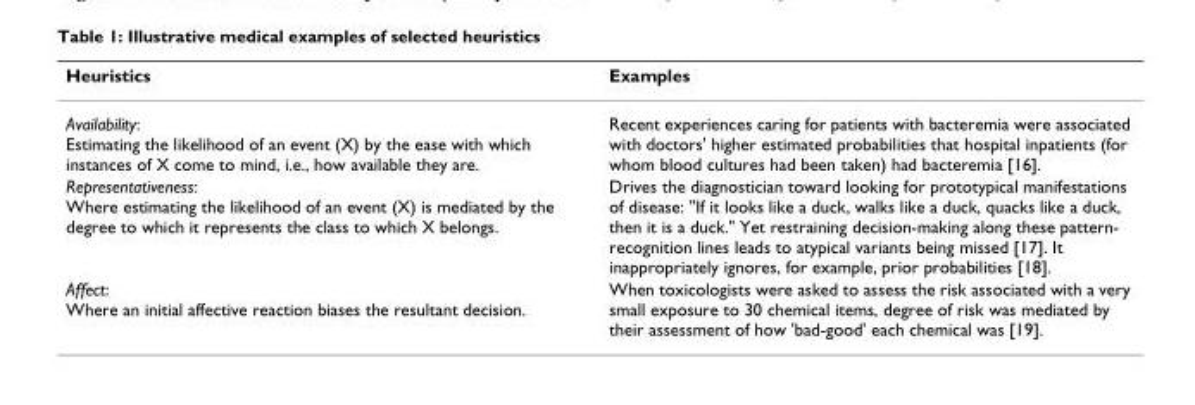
<table><thead><tr><td>Heuristics</td><td>Examples</td></tr></thead><tbody><tr><td>Availability: Estimating the likelihood of an event (X) by the ease with which instances of X come to mind, i.e., how available they are.</td><td>Recent experiences caring for patients with bacteremia were associated with doctors&#x27; higher estimated probabilities that hospital inpatients (for whom blood cultures had been taken) had bacteremia [16].</td></tr><tr><td>Representativeness: Where estimating the likelihood of an event (X) is mediated by the degree to which it represents the class to which X belongs.</td><td>Drives the diagnostician toward looking for prototypical manifestations of disease: &quot;If it looks like a duck, walks like a duck, quacks like a duck, then it is a duck.&quot; Yet restraining decision-making along these pattern- recognition lines leads to atypical variants being missed [17]. It inappropriately ignores, for example, prior probabilities [18].</td></tr><tr><td>Affect: Where an initial affective reaction biases the resultant decision.</td><td>When toxicologists were asked to assess the risk associated with a very small exposure to 30 chemical items, degree of risk was mediated by their assessment of how &#x27;bad-good&#x27; each chemical was [19].</td></tr></tbody></table>